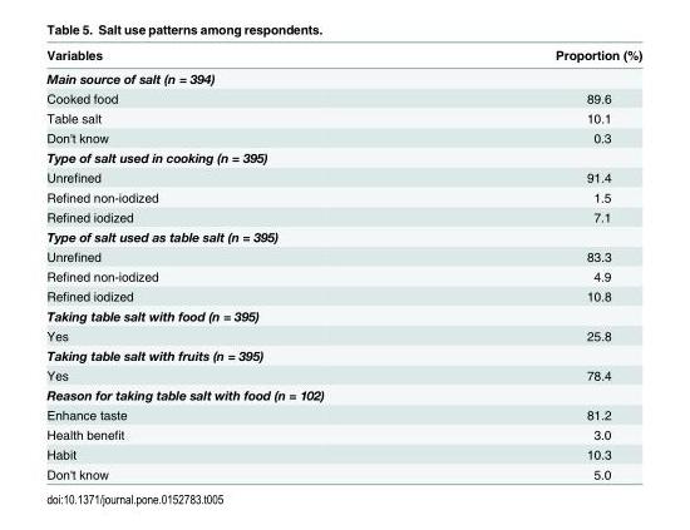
<table><thead><tr><td>Variables</td><td>Proportion (%)</td></tr></thead><tbody><tr><td colspan="2">Main source of salt (n = 394)</td></tr><tr><td>Cooked food</td><td>89.6</td></tr><tr><td>Table salt</td><td>10.1</td></tr><tr><td>Don&#x27;t know</td><td>0.3</td></tr><tr><td colspan="2">Type of salt used in cooking (n = 395)</td></tr><tr><td>Unrefined</td><td>91.4</td></tr><tr><td>Refined non-iodized</td><td>1.5</td></tr><tr><td>Refined iodized</td><td>7.1</td></tr><tr><td colspan="2">Type of salt used as table salt (n = 395)</td></tr><tr><td>Unrefined</td><td>83.3</td></tr><tr><td>Refined non-iodized</td><td>4.9</td></tr><tr><td>Refined iodized</td><td>10.8</td></tr><tr><td colspan="2">Taking table salt with food (n = 395)</td></tr><tr><td>Yes</td><td>25.8</td></tr><tr><td colspan="2">Taking table salt with fruits (n = 395)</td></tr><tr><td>Yes</td><td>78.4</td></tr><tr><td colspan="2">Reason for taking table salt with food (n = 102)</td></tr><tr><td>Enhance taste</td><td>81.2</td></tr><tr><td>Health benefit</td><td>3.0</td></tr><tr><td>Habit</td><td>10.3</td></tr><tr><td>Don&#x27;t know</td><td>5.0</td></tr></tbody></table>